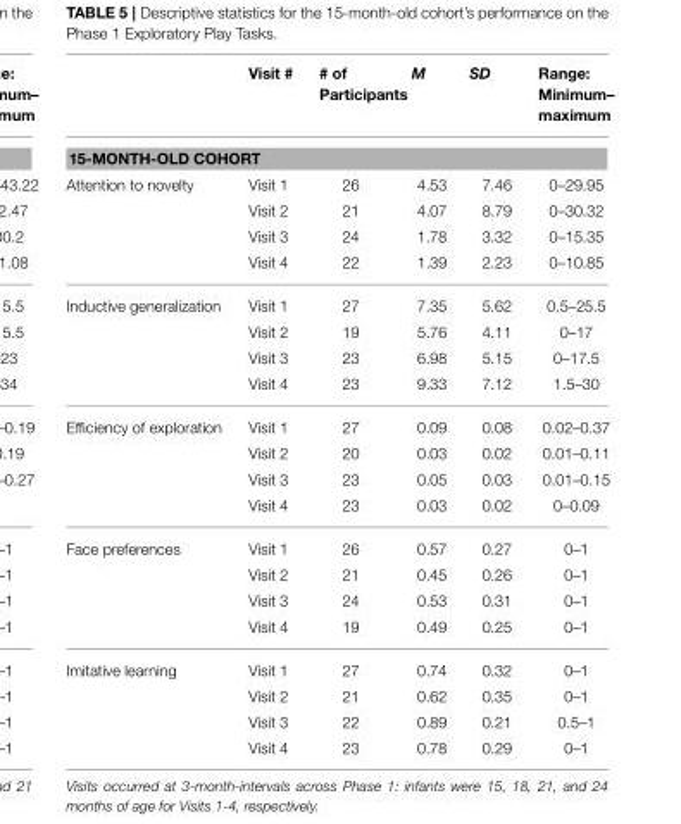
<table><thead><tr><td></td><td>Visit #</td><td># of Participants</td><td>M</td><td>SD</td><td>Range: Minimum– maximum</td></tr></thead><tbody><tr><td colspan="6">15-MONTH-OLD COHORT</td></tr><tr><td rowspan="4">Attention to novelty</td><td>Visit 1</td><td>26</td><td>4.53</td><td>7.46</td><td>0–29.95</td></tr><tr><td>Visit 2</td><td>21</td><td>4.07</td><td>8.79</td><td>0–30.32</td></tr><tr><td>Visit 3</td><td>24</td><td>1.78</td><td>3.32</td><td>0–15.35</td></tr><tr><td>Visit 4</td><td>22</td><td>1.39</td><td>2.23</td><td>0–10.85</td></tr><tr><td rowspan="4">Inductive generalization</td><td>Visit 1</td><td>27</td><td>7.35</td><td>5.62</td><td>0.5–25.5</td></tr><tr><td>Visit 2</td><td>19</td><td>5.76</td><td>4.11</td><td>0–17</td></tr><tr><td>Visit 3</td><td>23</td><td>6.98</td><td>5.15</td><td>0–17.5</td></tr><tr><td>Visit 4</td><td>23</td><td>9.33</td><td>7.12</td><td>1.5–30</td></tr><tr><td rowspan="4">Efficiency of exploration</td><td>Visit 1</td><td>27</td><td>0.09</td><td>0.08</td><td>0.02–0.37</td></tr><tr><td>Visit 2</td><td>20</td><td>0.03</td><td>0.02</td><td>0.01–0.11</td></tr><tr><td>Visit 3</td><td>23</td><td>0.05</td><td>0.03</td><td>0.01–0.15</td></tr><tr><td>Visit 4</td><td>23</td><td>0.03</td><td>0.02</td><td>0–0.09</td></tr><tr><td rowspan="4">Face preferences</td><td>Visit 1</td><td>26</td><td>0.57</td><td>0.27</td><td>0–1</td></tr><tr><td>Visit 2</td><td>21</td><td>0.45</td><td>0.26</td><td>0–1</td></tr><tr><td>Visit 3</td><td>24</td><td>0.53</td><td>0.31</td><td>0–1</td></tr><tr><td>Visit 4</td><td>19</td><td>0.49</td><td>0.25</td><td>0–1</td></tr><tr><td rowspan="4">Imitative learning</td><td>Visit 1</td><td>27</td><td>0.74</td><td>0.32</td><td>0–1</td></tr><tr><td>Visit 2</td><td>21</td><td>0.62</td><td>0.35</td><td>0–1</td></tr><tr><td>Visit 3</td><td>22</td><td>0.89</td><td>0.21</td><td>0.5–1</td></tr><tr><td>Visit 4</td><td>23</td><td>0.78</td><td>0.29</td><td>0–1</td></tr></tbody></table>